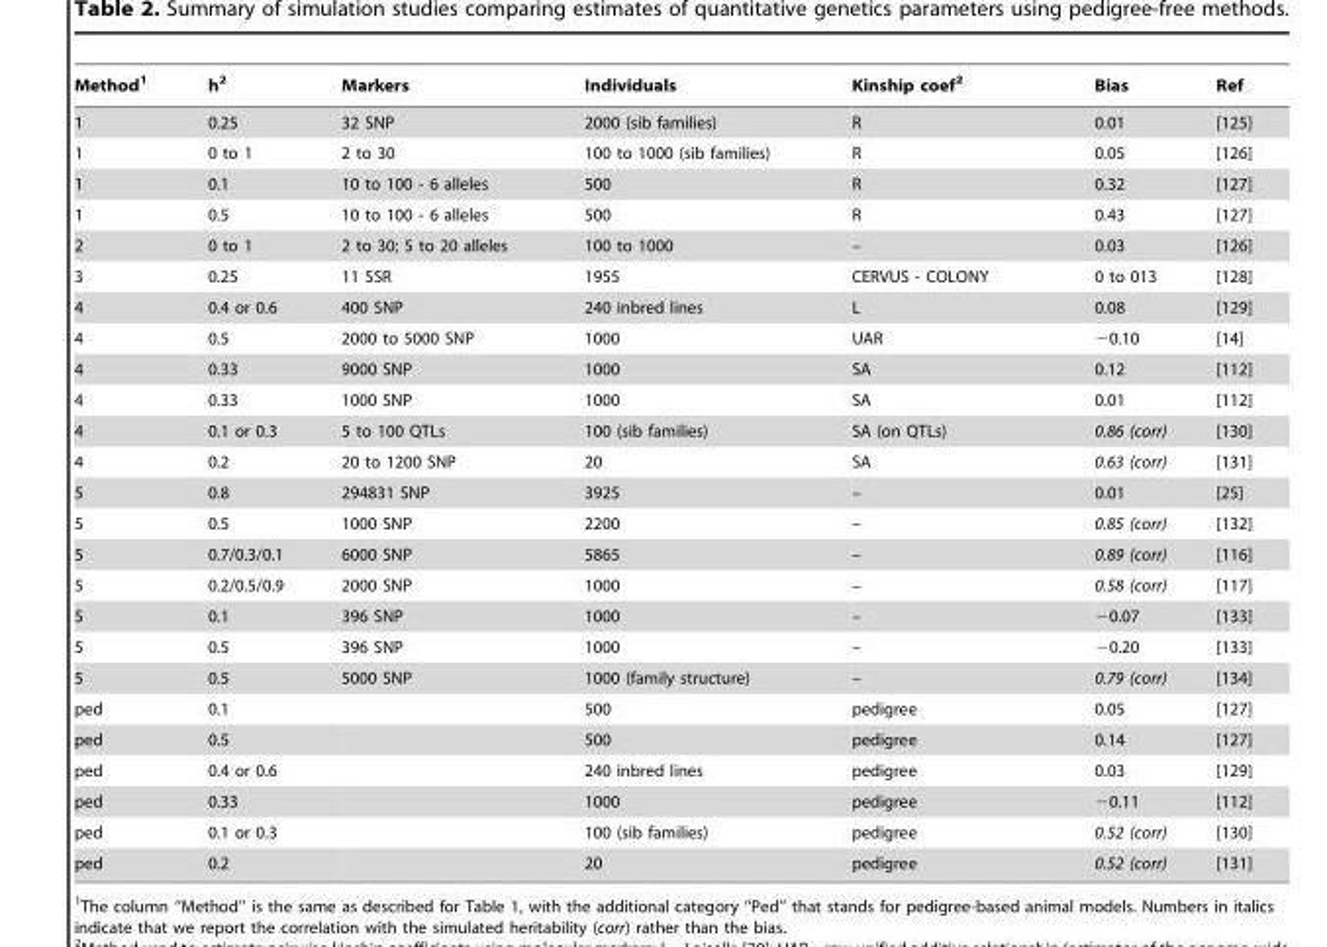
<table><thead><tr><td>Method<sup>1</sup></td><td>h<sup>2</sup></td><td>Markers</td><td>Individuals</td><td>Kinship coef<sup>2</sup></td><td>Bias</td><td>Ref</td></tr></thead><tbody><tr><td>1</td><td>0.25</td><td>32 SNP</td><td>2000 (sib families)</td><td>R</td><td>0.01</td><td>[125]</td></tr><tr><td>1</td><td>0 to 1</td><td>2 to 30</td><td>100 to 1000 (sib families)</td><td>R</td><td>0.05</td><td>[126]</td></tr><tr><td>1</td><td>0.1</td><td>10 to 100 - 6 alleles</td><td>500</td><td>R</td><td>0.32</td><td>[127]</td></tr><tr><td>1</td><td>0.5</td><td>10 to 100 - 6 alleles</td><td>500</td><td>R</td><td>0.43</td><td>[127]</td></tr><tr><td>2</td><td>0 to 1</td><td>2 to 30; 5 to 20 alleles</td><td>100 to 1000</td><td>–</td><td>0.03</td><td>[126]</td></tr><tr><td>3</td><td>0.25</td><td>11 SSR</td><td>1955</td><td>CERVUS - COLONY</td><td>0 to 013</td><td>[128]</td></tr><tr><td>4</td><td>0.4 or 0.6</td><td>400 SNP</td><td>240 inbred lines</td><td>L</td><td>0.08</td><td>[129]</td></tr><tr><td>4</td><td>0.5</td><td>2000 to 5000 SNP</td><td>1000</td><td>UAR</td><td>−0.10</td><td>[14]</td></tr><tr><td>4</td><td>0.33</td><td>9000 SNP</td><td>1000</td><td>SA</td><td>0.12</td><td>[112]</td></tr><tr><td>4</td><td>0.33</td><td>1000 SNP</td><td>1000</td><td>SA</td><td>0.01</td><td>[112]</td></tr><tr><td>4</td><td>0.1 or 0.3</td><td>5 to 100 QTLs</td><td>100 (sib families)</td><td>SA (on QTLs)</td><td>0.86 (corr)</td><td>[130]</td></tr><tr><td>4</td><td>0.2</td><td>20 to 1200 SNP</td><td>20</td><td>SA</td><td>0.63 (corr)</td><td>[131]</td></tr><tr><td>5</td><td>0.8</td><td>294831 SNP</td><td>3925</td><td>–</td><td>0.01</td><td>[25]</td></tr><tr><td>5</td><td>0.5</td><td>1000 SNP</td><td>2200</td><td>–</td><td>0.85 (corr)</td><td>[132]</td></tr><tr><td>5</td><td>0.7/0.3/0.1</td><td>6000 SNP</td><td>5865</td><td>–</td><td>0.89 (corr)</td><td>[116]</td></tr><tr><td>5</td><td>0.2/0.5/0.9</td><td>2000 SNP</td><td>1000</td><td>–</td><td>0.58 (corr)</td><td>[117]</td></tr><tr><td>5</td><td>0.1</td><td>396 SNP</td><td>1000</td><td>–</td><td>−0.07</td><td>[133]</td></tr><tr><td>5</td><td>0.5</td><td>396 SNP</td><td>1000</td><td>–</td><td>−0.20</td><td>[133]</td></tr><tr><td>5</td><td>0.5</td><td>5000 SNP</td><td>1000 (family structure)</td><td>–</td><td>0.79 (corr)</td><td>[134]</td></tr><tr><td>ped</td><td>0.1</td><td></td><td>500</td><td>pedigree</td><td>0.05</td><td>[127]</td></tr><tr><td>ped</td><td>0.5</td><td></td><td>500</td><td>pedigree</td><td>0.14</td><td>[127]</td></tr><tr><td>ped</td><td>0.4 or 0.6</td><td></td><td>240 inbred lines</td><td>pedigree</td><td>0.03</td><td>[129]</td></tr><tr><td>ped</td><td>0.33</td><td></td><td>1000</td><td>pedigree</td><td>−0.11</td><td>[112]</td></tr><tr><td>ped</td><td>0.1 or 0.3</td><td></td><td>100 (sib families)</td><td>pedigree</td><td>0.52 (corr)</td><td>[130]</td></tr><tr><td>ped</td><td>0.2</td><td></td><td>20</td><td>pedigree</td><td>0.52 (corr)</td><td>[131]</td></tr></tbody></table>